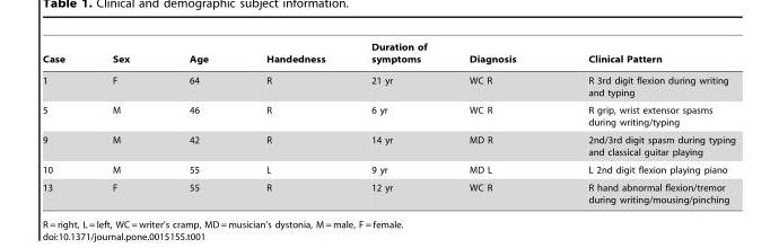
<table><thead><tr><td>Case</td><td>Sex</td><td>Age</td><td>Handedness</td><td>Duration of symptoms</td><td>Diagnosis</td><td>Clinical Pattern</td></tr></thead><tbody><tr><td>1</td><td>F</td><td>64</td><td>R</td><td>21 yr</td><td>WC R</td><td>R 3rd digit flexion during writing and typing</td></tr><tr><td>5</td><td>M</td><td>46</td><td>R</td><td>6 yr</td><td>WC R</td><td>R grip, wrist extensor spasms during writing/typing</td></tr><tr><td>9</td><td>M</td><td>42</td><td>R</td><td>14 yr</td><td>MD R</td><td>2nd/3rd digit spasm during typing and classical guitar playing</td></tr><tr><td>10</td><td>M</td><td>55</td><td>L</td><td>9 yr</td><td>MD L</td><td>L 2nd digit flexion playing piano</td></tr><tr><td>13</td><td>F</td><td>55</td><td>R</td><td>12 yr</td><td>WC R</td><td>R hand abnormal flexion/tremor during writing/mousing/pinching</td></tr></tbody></table>